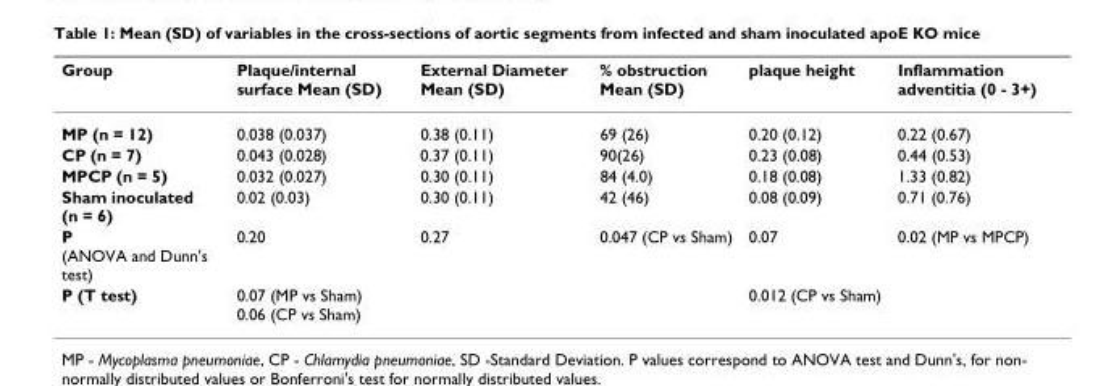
<table><thead><tr><td>Group</td><td>Plaque/internal surface Mean (SD)</td><td>External Diameter Mean (SD)</td><td>% obstruction Mean (SD)</td><td>plaque height</td><td>Inflammation adventitia (0 - 3+)</td></tr></thead><tbody><tr><td>MP (n = 12)</td><td>0.038 (0.037)</td><td>0.38 (0.11)</td><td>69 (26)</td><td>0.20 (0.12)</td><td>0.22 (0.67)</td></tr><tr><td>CP (n = 7)</td><td>0.043 (0.028)</td><td>0.37 (0.11)</td><td>90(26)</td><td>0.23 (0.08)</td><td>0.44 (0.53)</td></tr><tr><td>MPCP (n = 5)</td><td>0.032 (0.027)</td><td>0.30 (0.11)</td><td>84 (4.0)</td><td>0.18 (0.08)</td><td>1.33 (0.82)</td></tr><tr><td>Sham inoculated (n = 6)</td><td>0.02 (0.03)</td><td>0.30 (0.11)</td><td>42 (46)</td><td>0.08 (0.09)</td><td>0.71 (0.76)</td></tr><tr><td>P (ANOVA and Dunn&#x27;s test)</td><td>0.20</td><td>0.27</td><td>0.047 (CP vs Sham)</td><td>0.07</td><td>0.02 (MP vs MPCP)</td></tr><tr><td>P (T test)</td><td>0.07 (MP vs Sham) 0.06 (CP vs Sham)</td><td></td><td></td><td>0.012 (CP vs Sham)</td><td></td></tr></tbody></table>